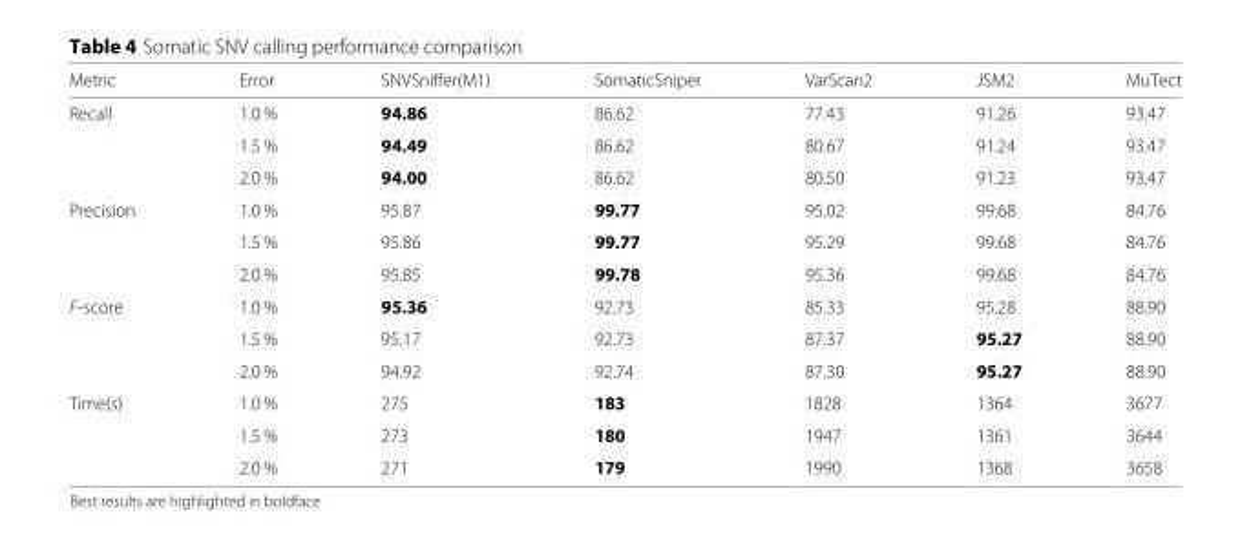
<table><thead><tr><td>Metric</td><td>Error</td><td>SNVSniffer(M1)</td><td>SomaticSniper</td><td>VarScan2</td><td>JSM2</td><td>MuTect</td></tr></thead><tbody><tr><td rowspan="3">Recall</td><td>1.0 %</td><td>94.86</td><td>86.62</td><td>77.43</td><td>91.26</td><td>93.47</td></tr><tr><td>1.5 %</td><td>94.49</td><td>86.62</td><td>80.67</td><td>91.24</td><td>93.47</td></tr><tr><td>2.0 %</td><td>94.00</td><td>86.62</td><td>80.50</td><td>91.23</td><td>93.47</td></tr><tr><td rowspan="3">Precision</td><td>1.0 %</td><td>95.87</td><td>99.77</td><td>95.02</td><td>99.68</td><td>84.76</td></tr><tr><td>1.5 %</td><td>95.86</td><td>99.77</td><td>95.29</td><td>99.68</td><td>84.76</td></tr><tr><td>2.0 %</td><td>95.85</td><td>99.78</td><td>95.36</td><td>99.68</td><td>84.76</td></tr><tr><td rowspan="3">F-score</td><td>1.0 %</td><td>95.36</td><td>92.73</td><td>85.33</td><td>95.28</td><td>88.90</td></tr><tr><td>1.5 %</td><td>95.17</td><td>92.73</td><td>87.37</td><td>95.27</td><td>88.90</td></tr><tr><td>2.0 %</td><td>94.92</td><td>92.74</td><td>87.30</td><td>95.27</td><td>88.90</td></tr><tr><td rowspan="3">Time(s)</td><td>1.0 %</td><td>275</td><td>183</td><td>1828</td><td>1364</td><td>3677</td></tr><tr><td>1.5 %</td><td>273</td><td>180</td><td>1947</td><td>1361</td><td>3644</td></tr><tr><td>2.0 %</td><td>271</td><td>179</td><td>1990</td><td>1368</td><td>3658</td></tr></tbody></table>